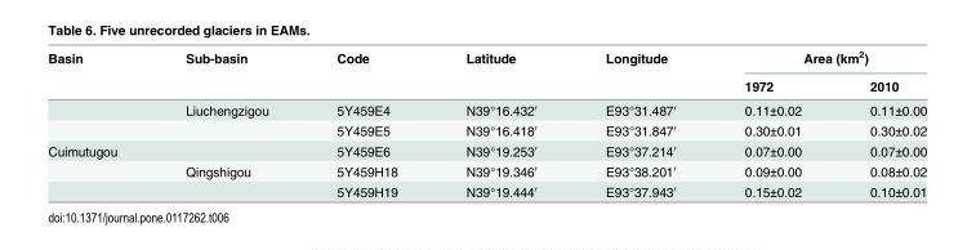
<table><thead><tr><td rowspan="2">Basin</td><td rowspan="2">Sub-basin</td><td rowspan="2">Code</td><td rowspan="2">Latitude</td><td rowspan="2">Longitude</td><td colspan="2">Area (km<sup>2</sup>)</td></tr><tr><td>1972</td><td>2010</td></tr></thead><tbody><tr><td></td><td>Liuchengzigou</td><td>5Y459E4</td><td>N39°16.432′</td><td>E93°31.487′</td><td>0.11±0.02</td><td>0.11±0.00</td></tr><tr><td></td><td></td><td>5Y459E5</td><td>N39°16.418′</td><td>E93°31.847′</td><td>0.30±0.01</td><td>0.30±0.02</td></tr><tr><td rowspan="3">Cuimutugou</td><td></td><td>5Y459E6</td><td>N39°19.253′</td><td>E93°37.214′</td><td>0.07±0.00</td><td>0.07±0.00</td></tr><tr><td>Qingshigou</td><td>5Y459H18</td><td>N39°19.346′</td><td>E93°38.201′</td><td>0.09±0.00</td><td>0.08±0.02</td></tr><tr><td></td><td>5Y459H19</td><td>N39°19.444′</td><td>E93°37.943′</td><td>0.15±0.02</td><td>0.10±0.01</td></tr></tbody></table>